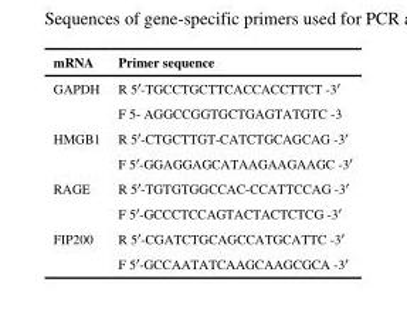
<table><thead><tr><td>mRNA</td><td>Primer sequence</td></tr></thead><tbody><tr><td rowspan="2">GAPDH</td><td>R 5′-TGCCTGCTTCACCACCTTCT -3′</td></tr><tr><td>F 5- AGGCCGGTGCTGAGTATGTC -3</td></tr><tr><td rowspan="2">HMGB1</td><td>R 5′-CTGCTTGT-CATCTGCAGCAG -3′</td></tr><tr><td>F 5′-GGAGGAGCATAAGAAGAAGC -3′</td></tr><tr><td rowspan="2">RAGE</td><td>R 5′-TGTGTGGCCAC-CCATTCCAG -3′</td></tr><tr><td>F 5′-GCCCTCCAGTACTACTCTCG -3′</td></tr><tr><td rowspan="2">FIP200</td><td>R 5′-CGATCTGCAGCCATGCATTC -3′</td></tr><tr><td>F 5′-GCCAATATCAAGCAAGCGCA -3′</td></tr></tbody></table>